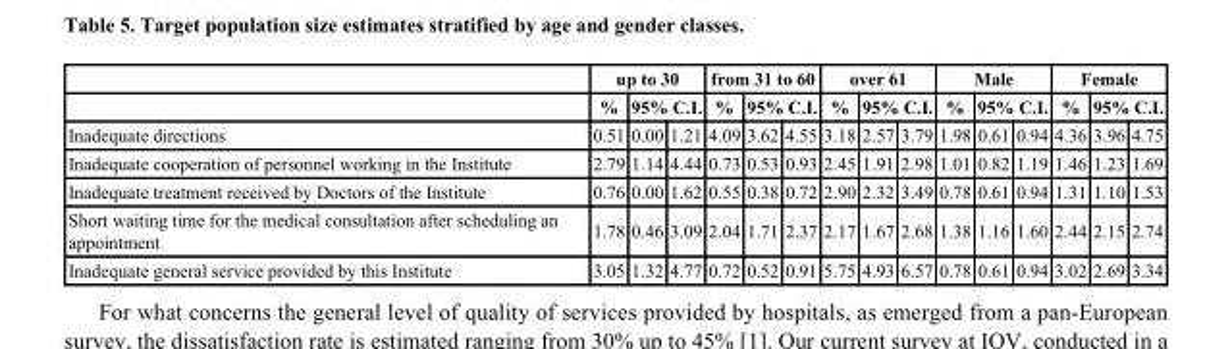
<table><thead><tr><td rowspan="3">Inadequate directions</td><td colspan="3">up to 30</td><td colspan="3">from 31 to 60</td><td colspan="3">over 61</td><td colspan="3">Male</td><td colspan="3">Female</td></tr><tr><td rowspan="2">% 0.51</td><td colspan="2">95% C.I.</td><td rowspan="2">% 4.09</td><td colspan="2">95% C.I.</td><td rowspan="2">% 3.18</td><td colspan="2">95% C.I.</td><td rowspan="2">% 1.98</td><td colspan="2">95% C.I.</td><td rowspan="2">% 4.36</td><td colspan="2">95% C.I.</td></tr><tr><td>0.00</td><td>1.21</td><td>3.62</td><td>4.55</td><td>2.57</td><td>3.79</td><td>0.61</td><td>0.94</td><td>3.96</td><td>4.75</td></tr></thead><tbody><tr><td>Inadequate cooperation of personnel working in the Institute</td><td>2.79</td><td>1.14</td><td>4.44</td><td>0.73</td><td>0.53</td><td>0.93</td><td>2.45</td><td>1.91</td><td>2.98</td><td>1.01</td><td>0.82</td><td>1.19</td><td>1.46</td><td>1.23</td><td>1.69</td></tr><tr><td>Inadequate treatment received by Doctors of the Institute</td><td>0.76</td><td>0.00</td><td>1.62</td><td>0.55</td><td>0.38</td><td>0.72</td><td>2.90</td><td>2.32</td><td>3.49</td><td>0.78</td><td>0.61</td><td>0.94</td><td>1.31</td><td>1.10</td><td>1.53</td></tr><tr><td>Short waiting time for the medical consultation after scheduling an appointment</td><td>1.78</td><td>0.46</td><td>3.09</td><td>2.04</td><td>1.71</td><td>2.37</td><td>2.17</td><td>1.67</td><td>2.68</td><td>1.38</td><td>1.16</td><td>1.60</td><td>2.44</td><td>2.15</td><td>2.74</td></tr><tr><td>Inadequate general service provided by this Institute</td><td>3.05</td><td>1.32</td><td>4.77</td><td>0.72</td><td>0.52</td><td>0.91</td><td>5.75</td><td>4.93</td><td>6.57</td><td>0.78</td><td>0.61</td><td>0.94</td><td>3.02</td><td>2.69</td><td>3.34</td></tr></tbody></table>